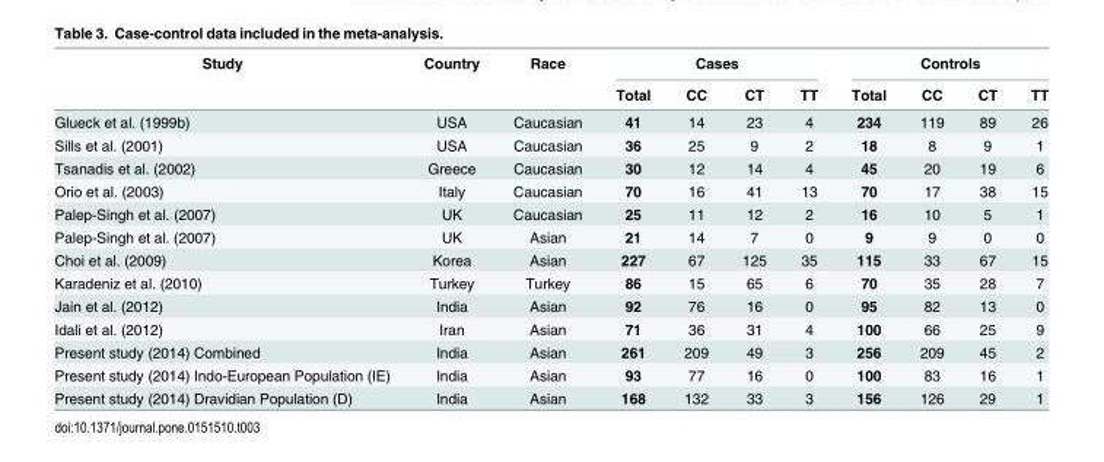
<table><thead><tr><td rowspan="2">Study</td><td rowspan="2">Country</td><td rowspan="2">Race</td><td colspan="4">Cases</td><td colspan="4">Controls</td></tr><tr><td>Total</td><td>CC</td><td>CT</td><td>TT</td><td>Total</td><td>CC</td><td>CT</td><td>TT</td></tr></thead><tbody><tr><td>Glueck et al. (1999b)</td><td>USA</td><td>Caucasian</td><td>41</td><td>14</td><td>23</td><td>4</td><td>234</td><td>119</td><td>89</td><td>26</td></tr><tr><td>Sills et al. (2001)</td><td>USA</td><td>Caucasian</td><td>36</td><td>25</td><td>9</td><td>2</td><td>18</td><td>8</td><td>9</td><td>1</td></tr><tr><td>Tsanadis et al. (2002)</td><td>Greece</td><td>Caucasian</td><td>30</td><td>12</td><td>14</td><td>4</td><td>45</td><td>20</td><td>19</td><td>6</td></tr><tr><td>Orio et al. (2003)</td><td>Italy</td><td>Caucasian</td><td>70</td><td>16</td><td>41</td><td>13</td><td>70</td><td>17</td><td>38</td><td>15</td></tr><tr><td>Palep-Singh et al. (2007)</td><td>UK</td><td>Caucasian</td><td>25</td><td>11</td><td>12</td><td>2</td><td>16</td><td>10</td><td>5</td><td>1</td></tr><tr><td>Palep-Singh et al. (2007)</td><td>UK</td><td>Asian</td><td>21</td><td>14</td><td>7</td><td>0</td><td>9</td><td>9</td><td>0</td><td>0</td></tr><tr><td>Choi et al. (2009)</td><td>Korea</td><td>Asian</td><td>227</td><td>67</td><td>125</td><td>35</td><td>115</td><td>33</td><td>67</td><td>15</td></tr><tr><td>Karadeniz et al. (2010)</td><td>Turkey</td><td>Turkey</td><td>86</td><td>15</td><td>65</td><td>6</td><td>70</td><td>35</td><td>28</td><td>7</td></tr><tr><td>Jain et al. (2012)</td><td>India</td><td>Asian</td><td>92</td><td>76</td><td>16</td><td>0</td><td>95</td><td>82</td><td>13</td><td>0</td></tr><tr><td>Idali et al. (2012)</td><td>Iran</td><td>Asian</td><td>71</td><td>36</td><td>31</td><td>4</td><td>100</td><td>66</td><td>25</td><td>9</td></tr><tr><td>Present study (2014) Combined</td><td>India</td><td>Asian</td><td>261</td><td>209</td><td>49</td><td>3</td><td>256</td><td>209</td><td>45</td><td>2</td></tr><tr><td>Present study (2014) Indo-European Population (IE)</td><td>India</td><td>Asian</td><td>93</td><td>77</td><td>16</td><td>0</td><td>100</td><td>83</td><td>16</td><td>1</td></tr><tr><td>Present study (2014) Dravidian Population (D)</td><td>India</td><td>Asian</td><td>168</td><td>132</td><td>33</td><td>3</td><td>156</td><td>126</td><td>29</td><td>1</td></tr></tbody></table>